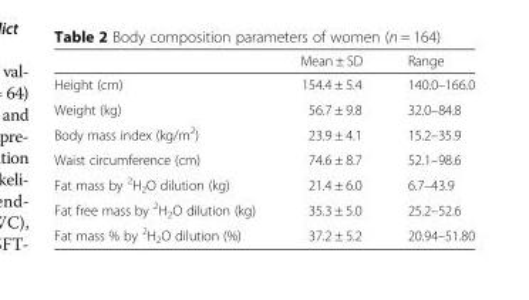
<table><thead><tr><td></td><td>Mean ± SD</td><td>Range</td></tr></thead><tbody><tr><td>Height (cm)</td><td>154.4 ± 5.4</td><td>140.0–166.0</td></tr><tr><td>Weight (kg)</td><td>56.7 ± 9.8</td><td>32.0–84.8</td></tr><tr><td>Body mass index (kg/m<sup>2</sup>)</td><td>23.9 ± 4.1</td><td>15.2–35.9</td></tr><tr><td>Waist circumference (cm)</td><td>74.6 ± 8.7</td><td>52.1–98.6</td></tr><tr><td>Fat mass by <sup>2</sup>H<sub>2</sub>O dilution (kg)</td><td>21.4 ± 6.0</td><td>6.7–43.9</td></tr><tr><td>Fat free mass by <sup>2</sup>H<sub>2</sub>O dilution (kg)</td><td>35.3 ± 5.0</td><td>25.2–52.6</td></tr><tr><td>Fat mass % by <sup>2</sup>H<sub>2</sub>O dilution (%)</td><td>37.2 ± 5.2</td><td>20.94–51.80</td></tr></tbody></table>